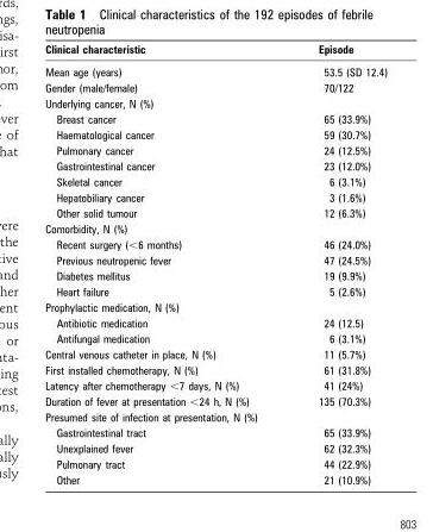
<table><thead><tr><td>Clinical characteristic</td><td>Episode</td></tr></thead><tbody><tr><td>Mean age (years)</td><td>53.5 (SD 12.4)</td></tr><tr><td>Gender (male/female)</td><td>70/122</td></tr><tr><td colspan="2">Underlying cancer, N (%)</td></tr><tr><td>Breast cancer</td><td>65 (33.9%)</td></tr><tr><td>Haematological cancer</td><td>59 (30.7%)</td></tr><tr><td>Pulmonary cancer</td><td>24 (12.5%)</td></tr><tr><td>Gastrointestinal cancer</td><td>23 (12.0%)</td></tr><tr><td>Skeletal cancer</td><td>6 (3.1%)</td></tr><tr><td>Hepatobiliary cancer</td><td>3 (1.6%)</td></tr><tr><td>Other solid tumour</td><td>12 (6.3%)</td></tr><tr><td colspan="2">Comorbidity, N (%)</td></tr><tr><td>Recent surgery (&lt;6 months)</td><td>46 (24.0%)</td></tr><tr><td>Previous neutropenic fever</td><td>47 (24.5%)</td></tr><tr><td>Diabetes mellitus</td><td>19 (9.9%)</td></tr><tr><td>Heart failure</td><td>5 (2.6%)</td></tr><tr><td colspan="2">Prophylactic medication, N (%)</td></tr><tr><td>Antibiotic medication</td><td>24 (12.5)</td></tr><tr><td>Antifungal medication</td><td>6 (3.1%)</td></tr><tr><td>Central venous catheter in place, N (%)</td><td>11 (5.7%)</td></tr><tr><td>First installed chemotherapy, N (%)</td><td>61 (31.8%)</td></tr><tr><td>Latency after chemotherapy &lt;7 days, N (%)</td><td>41 (24%)</td></tr><tr><td>Duration of fever at presentation &lt;24 h, N (%)</td><td>135 (70.3%)</td></tr><tr><td colspan="2">Presumed site of infection at presentation, N (%)</td></tr><tr><td>Gastrointestinal tract</td><td>65 (33.9%)</td></tr><tr><td>Unexplained fever</td><td>62 (32.3%)</td></tr><tr><td>Pulmonary tract</td><td>44 (22.9%)</td></tr><tr><td>Other</td><td>21 (10.9%)</td></tr></tbody></table>